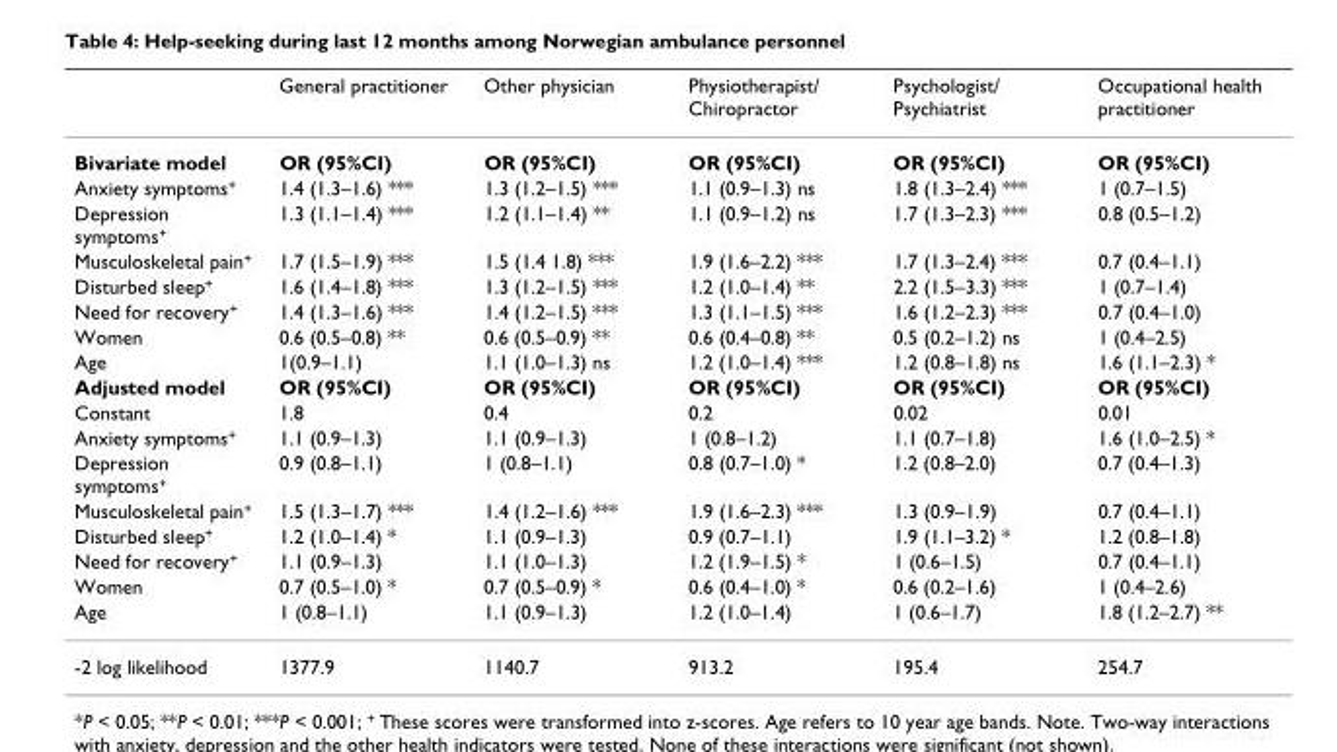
<table><thead><tr><td></td><td>General practitioner</td><td>Other physician</td><td>Physiotherapist/ Chiropractor</td><td>Psychologist/ Psychiatrist</td><td>Occupational health practitioner</td></tr></thead><tbody><tr><td>Bivariate model</td><td>OR (95%CI)</td><td>OR (95%CI)</td><td>OR (95%CI)</td><td>OR (95%CI)</td><td>OR (95%CI)</td></tr><tr><td>Anxiety symptoms<sup>+</sup></td><td>1.4 (1.3–1.6) ***</td><td>1.3 (1.2–1.5) ***</td><td>1.1 (0.9–1.3) ns</td><td>1.8 (1.3–2.4) ***</td><td>1 (0.7–1.5)</td></tr><tr><td>Depression symptoms<sup>+</sup></td><td>1.3 (1.1–1.4) ***</td><td>1.2 (1.1–1.4) **</td><td>1.1 (0.9–1.2) ns</td><td>1.7 (1.3–2.3) ***</td><td>0.8 (0.5–1.2)</td></tr><tr><td>Musculoskeletal pain<sup>+</sup></td><td>1.7 (1.5–1.9) ***</td><td>1.5 (1.4 1.8) ***</td><td>1.9 (1.6–2.2) ***</td><td>1.7 (1.3–2.4) ***</td><td>0.7 (0.4–1.1)</td></tr><tr><td>Disturbed sleep<sup>+</sup></td><td>1.6 (1.4–1.8) ***</td><td>1.3 (1.2–1.5) ***</td><td>1.2 (1.0–1.4) **</td><td>2.2 (1.5–3.3) ***</td><td>1 (0.7–1.4)</td></tr><tr><td>Need for recovery<sup>+</sup></td><td>1.4 (1.3–1.6) ***</td><td>1.4 (1.2–1.5) ***</td><td>1.3 (1.1–1.5) ***</td><td>1.6 (1.2–2.3) ***</td><td>0.7 (0.4–1.0)</td></tr><tr><td>Women</td><td>0.6 (0.5–0.8) **</td><td>0.6 (0.5–0.9) **</td><td>0.6 (0.4–0.8) **</td><td>0.5 (0.2–1.2) ns</td><td>1 (0.4–2.5)</td></tr><tr><td>Age</td><td>1(0.9–1.1)</td><td>1.1 (1.0–1.3) ns</td><td>1.2 (1.0–1.4) ***</td><td>1.2 (0.8–1.8) ns</td><td>1.6 (1.1–2.3) *</td></tr><tr><td>Adjusted model</td><td>OR (95%CI)</td><td>OR (95%CI)</td><td>OR (95%CI)</td><td>OR (95%CI)</td><td>OR (95%CI)</td></tr><tr><td>Constant</td><td>1.8</td><td>0.4</td><td>0.2</td><td>0.02</td><td>0.01</td></tr><tr><td>Anxiety symptoms<sup>+</sup></td><td>1.1 (0.9–1.3)</td><td>1.1 (0.9–1.3)</td><td>1 (0.8–1.2)</td><td>1.1 (0.7–1.8)</td><td>1.6 (1.0–2.5) *</td></tr><tr><td>Depression symptoms<sup>+</sup></td><td>0.9 (0.8–1.1)</td><td>1 (0.8–1.1)</td><td>0.8 (0.7–1.0) *</td><td>1.2 (0.8–2.0)</td><td>0.7 (0.4–1.3)</td></tr><tr><td>Musculoskeletal pain<sup>+</sup></td><td>1.5 (1.3–1.7) ***</td><td>1.4 (1.2–1.6) ***</td><td>1.9 (1.6–2.3) ***</td><td>1.3 (0.9–1.9)</td><td>0.7 (0.4–1.1)</td></tr><tr><td>Disturbed sleep<sup>+</sup></td><td>1.2 (1.0–1.4) *</td><td>1.1 (0.9–1.3)</td><td>0.9 (0.7–1.1)</td><td>1.9 (1.1–3.2) *</td><td>1.2 (0.8–1.8)</td></tr><tr><td>Need for recovery<sup>+</sup></td><td>1.1 (0.9–1.3)</td><td>1.1 (1.0–1.3)</td><td>1.2 (1.9–1.5) *</td><td>1 (0.6–1.5)</td><td>0.7 (0.4–1.1)</td></tr><tr><td>Women</td><td>0.7 (0.5–1.0) *</td><td>0.7 (0.5–0.9) *</td><td>0.6 (0.4–1.0) *</td><td>0.6 (0.2–1.6)</td><td>1 (0.4–2.6)</td></tr><tr><td>Age</td><td>1 (0.8–1.1)</td><td>1.1 (0.9–1.3)</td><td>1.2 (1.0–1.4)</td><td>1 (0.6–1.7)</td><td>1.8 (1.2–2.7) **</td></tr><tr><td>-2 log likelihood</td><td>1377.9</td><td>1140.7</td><td>913.2</td><td>195.4</td><td>254.7</td></tr></tbody></table>